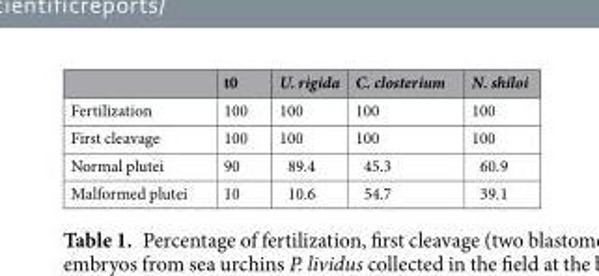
<table><thead><tr><td></td><td>t0</td><td>U. rigida</td><td>C. closterium</td><td>N. shiloi</td></tr></thead><tbody><tr><td>Fertilization</td><td>100</td><td>100</td><td>100</td><td>100</td></tr><tr><td>First cleavage</td><td>100</td><td>100</td><td>100</td><td>100</td></tr><tr><td>Normal plutei</td><td>90</td><td>89.4</td><td>45.3</td><td>60.9</td></tr><tr><td>Malformed plutei</td><td>10</td><td>10.6</td><td>54.7</td><td>39.1</td></tr></tbody></table>